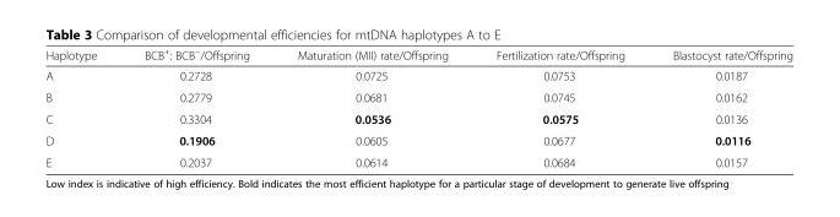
<table><thead><tr><td>Haplotype</td><td>BCB<sup>+</sup>: BCB<sup>−</sup>/Offspring</td><td>Maturation (MII) rate/Offspring</td><td>Fertilization rate/Offspring</td><td>Blastocyst rate/Offspring</td></tr></thead><tbody><tr><td>A</td><td>0.2728</td><td>0.0725</td><td>0.0753</td><td>0.0187</td></tr><tr><td>B</td><td>0.2779</td><td>0.0681</td><td>0.0745</td><td>0.0162</td></tr><tr><td>C</td><td>0.3304</td><td>0.0536</td><td>0.0575</td><td>0.0136</td></tr><tr><td>D</td><td>0.1906</td><td>0.0605</td><td>0.0677</td><td>0.0116</td></tr><tr><td>E</td><td>0.2037</td><td>0.0614</td><td>0.0684</td><td>0.0157</td></tr></tbody></table>